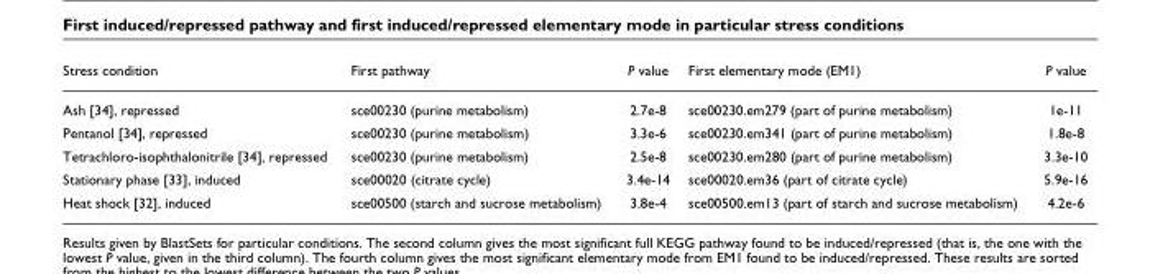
<table><thead><tr><td>Stress condition</td><td>First pathway</td><td>P value</td><td>First elementary mode (EM1)</td><td>P value</td></tr></thead><tbody><tr><td>Ash [34], repressed</td><td>sce00230 (purine metabolism)</td><td>2.7e-8</td><td>sce00230.em279 (part of purine metabolism)</td><td>1e-11</td></tr><tr><td>Pentanol [34], repressed</td><td>sce00230 (purine metabolism)</td><td>3.3e-6</td><td>sce00230.em341 (part of purine metabolism)</td><td>1.8e-8</td></tr><tr><td>Tetrachloro-isophthalonitrile [34], repressed</td><td>sce00230 (purine metabolism)</td><td>2.5e-8</td><td>sce00230.em280 (part of purine metabolism)</td><td>3.3e-10</td></tr><tr><td>Stationary phase [33], induced</td><td>sce00020 (citrate cycle)</td><td>3.4e-14</td><td>sce00020.em36 (part of citrate cycle)</td><td>5.9e-16</td></tr><tr><td>Heat shock [32], induced</td><td>sce00500 (starch and sucrose metabolism)</td><td>3.8e-4</td><td>sce00500.em13 (part of starch and sucrose metabolism)</td><td>4.2e-6</td></tr></tbody></table>